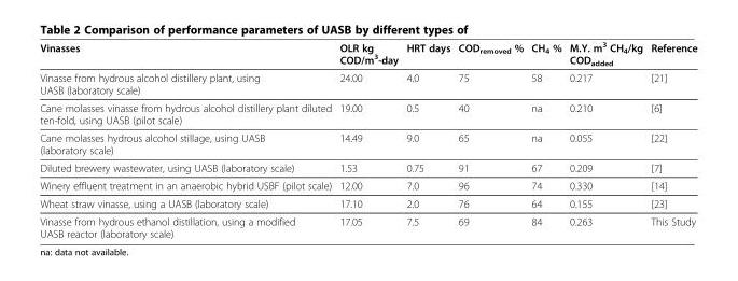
<table><thead><tr><td>Vinasses</td><td>OLR kg COD/m<sup>3</sup>-day</td><td>HRT days</td><td>COD<sub>removed</sub> %</td><td>CH<sub>4</sub> %</td><td>M.Y. m<sup>3</sup> CH<sub>4</sub>/kg COD<sub>added</sub></td><td>Reference</td></tr></thead><tbody><tr><td>Vinasse from hydrous alcohol distillery plant, using UASB (laboratory scale)</td><td>24.00</td><td>4.0</td><td>75</td><td>58</td><td>0.217</td><td>[21]</td></tr><tr><td>Cane molasses vinasse from hydrous alcohol distillery plant diluted ten-fold, using UASB (pilot scale)</td><td>19.00</td><td>0.5</td><td>40</td><td>na</td><td>0.210</td><td>[6]</td></tr><tr><td>Cane molasses hydrous alcohol stillage, using UASB (laboratory scale)</td><td>14.49</td><td>9.0</td><td>65</td><td>na</td><td>0.055</td><td>[22]</td></tr><tr><td>Diluted brewery wastewater, using UASB (laboratory scale)</td><td>1.53</td><td>0.75</td><td>91</td><td>67</td><td>0.209</td><td>[7]</td></tr><tr><td>Winery effluent treatment in an anaerobic hybrid USBF (pilot scale)</td><td>12.00</td><td>7.0</td><td>96</td><td>74</td><td>0.330</td><td>[14]</td></tr><tr><td>Wheat straw vinasse, using a UASB (laboratory scale)</td><td>17.10</td><td>2.0</td><td>76</td><td>64</td><td>0.155</td><td>[23]</td></tr><tr><td>Vinasse from hydrous ethanol distillation, using a modified UASB reactor (laboratory scale)</td><td>17.05</td><td>7.5</td><td>69</td><td>84</td><td>0.263</td><td>This Study</td></tr></tbody></table>